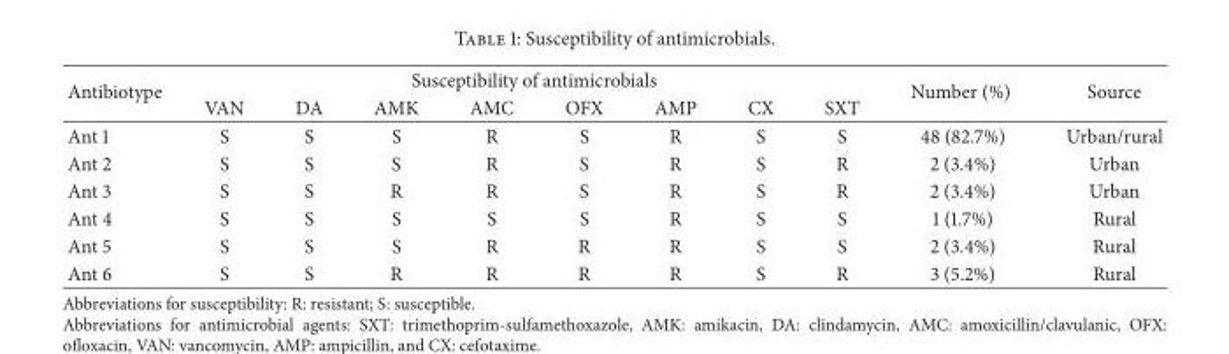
<table><thead><tr><td rowspan="2">Antibiotype</td><td colspan="8">Susceptibility of antimicrobials</td><td rowspan="2">Number (%)</td><td rowspan="2">Source</td></tr><tr><td>VAN</td><td>DA</td><td>AMK</td><td>AMC</td><td>OFX</td><td>AMP</td><td>CX</td><td>SXT</td></tr></thead><tbody><tr><td>Ant 1</td><td>S</td><td>S</td><td>S</td><td>R</td><td>S</td><td>R</td><td>S</td><td>S</td><td>48 (82.7%)</td><td>Urban/rural</td></tr><tr><td>Ant 2</td><td>S</td><td>S</td><td>S</td><td>R</td><td>S</td><td>R</td><td>S</td><td>R</td><td>2 (3.4%)</td><td>Urban</td></tr><tr><td>Ant 3</td><td>S</td><td>S</td><td>R</td><td>R</td><td>S</td><td>R</td><td>S</td><td>R</td><td>2 (3.4%)</td><td>Urban</td></tr><tr><td>Ant 4</td><td>S</td><td>S</td><td>S</td><td>S</td><td>S</td><td>R</td><td>S</td><td>S</td><td>1 (1.7%)</td><td>Rural</td></tr><tr><td>Ant 5</td><td>S</td><td>S</td><td>S</td><td>R</td><td>R</td><td>R</td><td>S</td><td>S</td><td>2 (3.4%)</td><td>Rural</td></tr><tr><td>Ant 6</td><td>S</td><td>S</td><td>R</td><td>R</td><td>R</td><td>R</td><td>S</td><td>R</td><td>3 (5.2%)</td><td>Rural</td></tr></tbody></table>